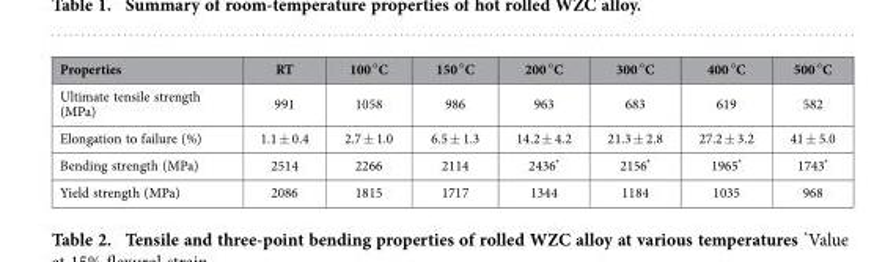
<table><thead><tr><td>Properties</td><td>RT</td><td>100 <sup>°</sup>C</td><td>150 <sup>°</sup>C</td><td>200 <sup>°</sup>C</td><td>300 <sup>°</sup>C</td><td>400 <sup>°</sup>C</td><td>500 <sup>°</sup>C</td></tr></thead><tbody><tr><td>Ultimate tensile strength (MPa)</td><td>991</td><td>1058</td><td>986</td><td>963</td><td>683</td><td>619</td><td>582</td></tr><tr><td>Elongation to failure (%)</td><td>1.1 ± 0.4</td><td>2.7 ± 1.0</td><td>6.5 ± 1.3</td><td>14.2 ± 4.2</td><td>21.3 ± 2.8</td><td>27.2 ± 3.2</td><td>41 ± 5.0</td></tr><tr><td>Bending strength (MPa)</td><td>2514</td><td>2266</td><td>2114</td><td>2436*</td><td>2156*</td><td>1965*</td><td>1743*</td></tr><tr><td>Yield strength (MPa)</td><td>2086</td><td>1815</td><td>1717</td><td>1344</td><td>1184</td><td>1035</td><td>968</td></tr></tbody></table>